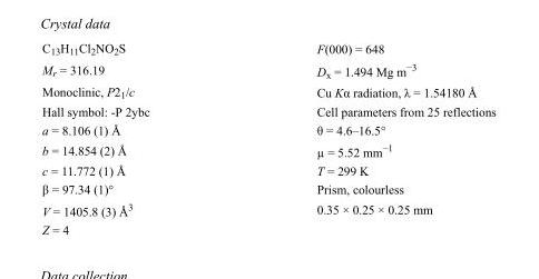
<table><tbody><tr><td>C<sub>13</sub>H<sub>11</sub>Cl<sub>2</sub>NO<sub>2</sub>S</td><td>F(000) = 648</td></tr><tr><td>M<sub>r</sub> = 316.19</td><td>D<sub>x</sub> = 1.494 Mg m<sup>−3</sup></td></tr><tr><td>Monoclinic, P2<sub>1</sub>/c</td><td>Cu Kα radiation, λ = 1.54180 Å</td></tr><tr><td>Hall symbol: -P 2ybc</td><td>Cell parameters from 25 reflections</td></tr><tr><td>a = 8.106 (1) Å</td><td>θ = 4.6–16.5°</td></tr><tr><td>b = 14.854 (2) Å</td><td>µ = 5.52 mm<sup>−1</sup></td></tr><tr><td>c = 11.772 (1) Å</td><td>T = 299 K</td></tr><tr><td>β = 97.34 (1)°</td><td>Prism, colourless</td></tr><tr><td>V = 1405.8 (3) Å<sup>3</sup></td><td>0.35 × 0.25 × 0.25 mm</td></tr><tr><td>Z = 4</td><td></td></tr></tbody></table>